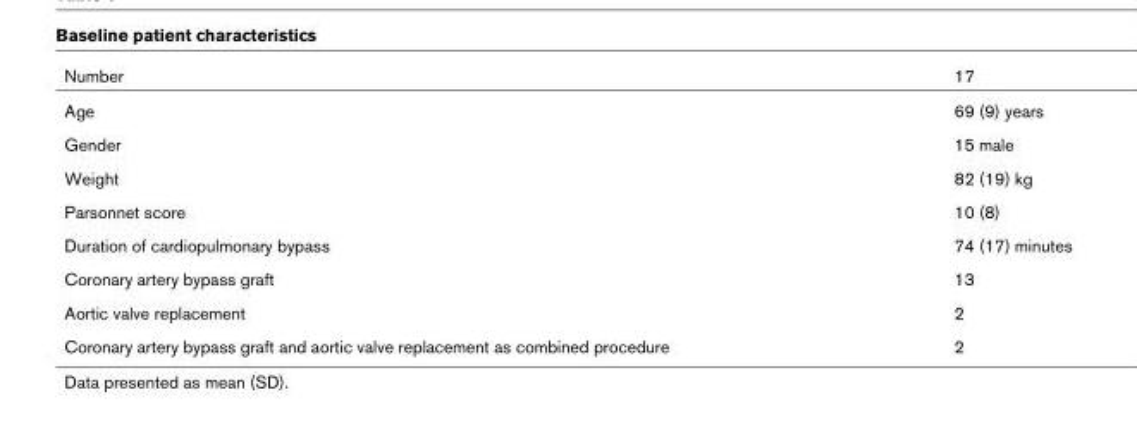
<table><thead><tr><td>Number</td><td>17</td></tr></thead><tbody><tr><td>Age</td><td>69 (9) years</td></tr><tr><td>Gender</td><td>15 male</td></tr><tr><td>Weight</td><td>82 (19) kg</td></tr><tr><td>Parsonnet score</td><td>10 (8)</td></tr><tr><td>Duration of cardiopulmonary bypass</td><td>74 (17) minutes</td></tr><tr><td>Coronary artery bypass graft</td><td>13</td></tr><tr><td>Aortic valve replacement</td><td>2</td></tr><tr><td>Coronary artery bypass graft and aortic valve replacement as combined procedure</td><td>2</td></tr></tbody></table>